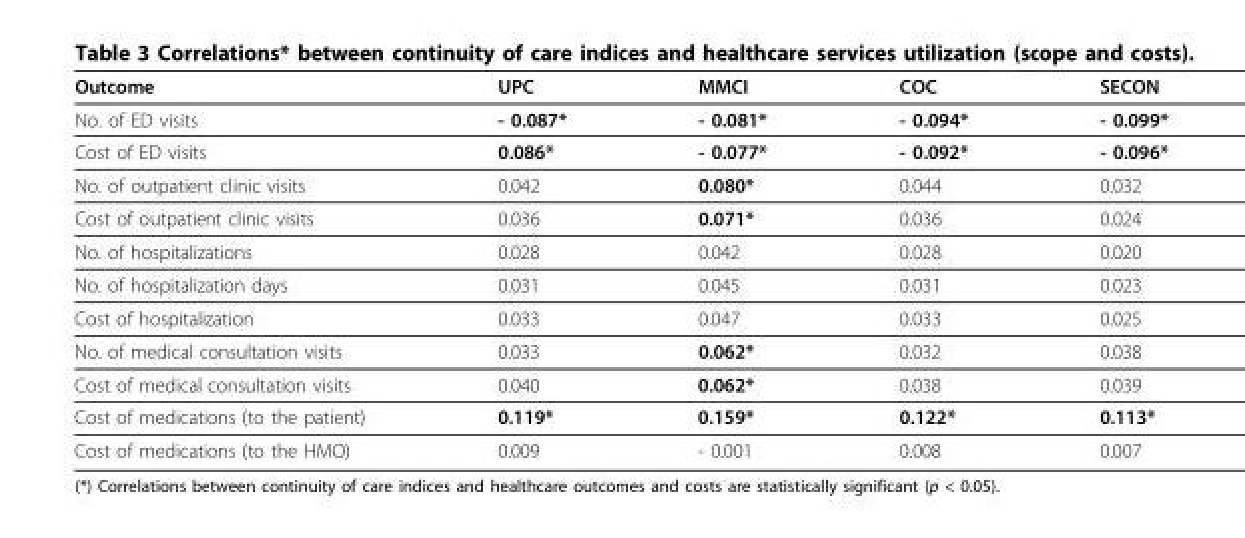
<table><thead><tr><td>Outcome</td><td>UPC</td><td>MMCI</td><td>COC</td><td>SECON</td></tr></thead><tbody><tr><td>No. of ED visits</td><td>- 0.087*</td><td>- 0.081*</td><td>- 0.094*</td><td>- 0.099*</td></tr><tr><td>Cost of ED visits</td><td>0.086*</td><td>- 0.077*</td><td>- 0.092*</td><td>- 0.096*</td></tr><tr><td>No. of outpatient clinic visits</td><td>0.042</td><td>0.080*</td><td>0.044</td><td>0.032</td></tr><tr><td>Cost of outpatient clinic visits</td><td>0.036</td><td>0.071*</td><td>0.036</td><td>0.024</td></tr><tr><td>No. of hospitalizations</td><td>0.028</td><td>0.042</td><td>0.028</td><td>0.020</td></tr><tr><td>No. of hospitalization days</td><td>0.031</td><td>0.045</td><td>0.031</td><td>0.023</td></tr><tr><td>Cost of hospitalization</td><td>0.033</td><td>0.047</td><td>0.033</td><td>0.025</td></tr><tr><td>No. of medical consultation visits</td><td>0.033</td><td>0.062*</td><td>0.032</td><td>0.038</td></tr><tr><td>Cost of medical consultation visits</td><td>0.040</td><td>0.062*</td><td>0.038</td><td>0.039</td></tr><tr><td>Cost of medications (to the patient)</td><td>0.119*</td><td>0.159*</td><td>0.122*</td><td>0.113*</td></tr><tr><td>Cost of medications (to the HMO)</td><td>0.009</td><td>- 0.001</td><td>0.008</td><td>0.007</td></tr></tbody></table>